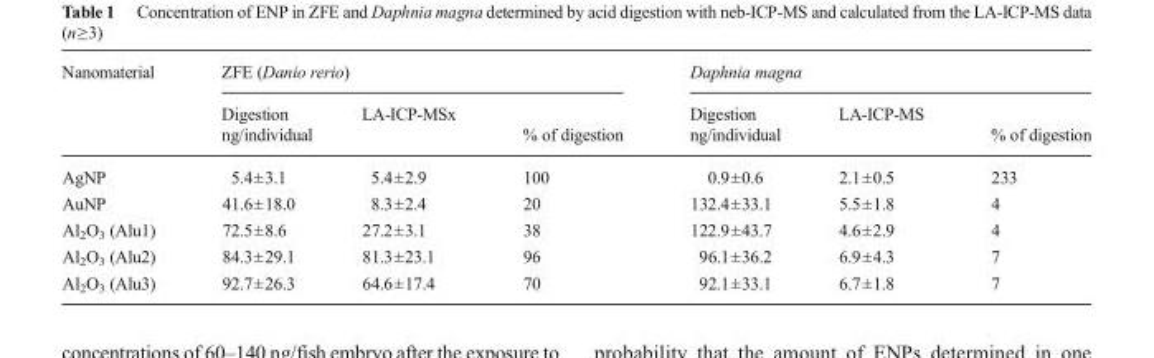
<table><thead><tr><td rowspan="3">Nanomaterial</td><td colspan="3">ZFE (Danio rerio)</td><td colspan="3">Daphnia magna</td></tr><tr><td>Digestion</td><td>LA-ICP-MSx</td><td rowspan="2">% of digestion</td><td>Digestion</td><td>LA-ICP-MS</td><td rowspan="2">% of digestion</td></tr><tr><td colspan="2">ng/individual</td><td colspan="2">ng/individual</td></tr></thead><tbody><tr><td>AgNP</td><td>5.4±3.1</td><td>5.4±2.9</td><td>100</td><td>0.9±0.6</td><td>2.1±0.5</td><td>233</td></tr><tr><td>AuNP</td><td>41.6±18.0</td><td>8.3±2.4</td><td>20</td><td>132.4±33.1</td><td>5.5±1.8</td><td>4</td></tr><tr><td>Al<sub>2</sub>O<sub>3</sub> (Alu1)</td><td>72.5±8.6</td><td>27.2±3.1</td><td>38</td><td>122.9±43.7</td><td>4.6±2.9</td><td>4</td></tr><tr><td>Al<sub>2</sub>O<sub>3</sub> (Alu2)</td><td>84.3±29.1</td><td>81.3±23.1</td><td>96</td><td>96.1±36.2</td><td>6.9±4.3</td><td>7</td></tr><tr><td>Al<sub>2</sub>O<sub>3</sub> (Alu3)</td><td>92.7±26.3</td><td>64.6±17.4</td><td>70</td><td>92.1±33.1</td><td>6.7±1.8</td><td>7</td></tr></tbody></table>